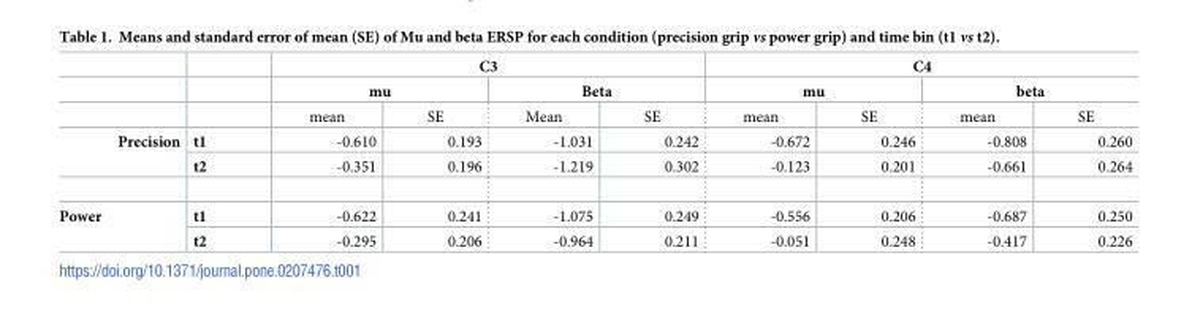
<table><thead><tr><td rowspan="3"></td><td rowspan="3"></td><td colspan="4">C3</td><td colspan="4">C4</td></tr><tr><td colspan="2">mu</td><td colspan="2">Beta</td><td colspan="2">mu</td><td colspan="2">beta</td></tr><tr><td>mean</td><td>SE</td><td>Mean</td><td>SE</td><td>mean</td><td>SE</td><td>mean</td><td>SE</td></tr></thead><tbody><tr><td rowspan="2">Precision</td><td>t1</td><td>-0.610</td><td>0.193</td><td>-1.031</td><td>0.242</td><td>-0.672</td><td>0.246</td><td>-0.808</td><td>0.260</td></tr><tr><td>t2</td><td>-0.351</td><td>0.196</td><td>-1.219</td><td>0.302</td><td>-0.123</td><td>0.201</td><td>-0.661</td><td>0.264</td></tr><tr><td rowspan="2">Power</td><td>t1</td><td>-0.622</td><td>0.241</td><td>-1.075</td><td>0.249</td><td>-0.556</td><td>0.206</td><td>-0.687</td><td>0.250</td></tr><tr><td>t2</td><td>-0.295</td><td>0.206</td><td>-0.964</td><td>0.211</td><td>-0.051</td><td>0.248</td><td>-0.417</td><td>0.226</td></tr></tbody></table>